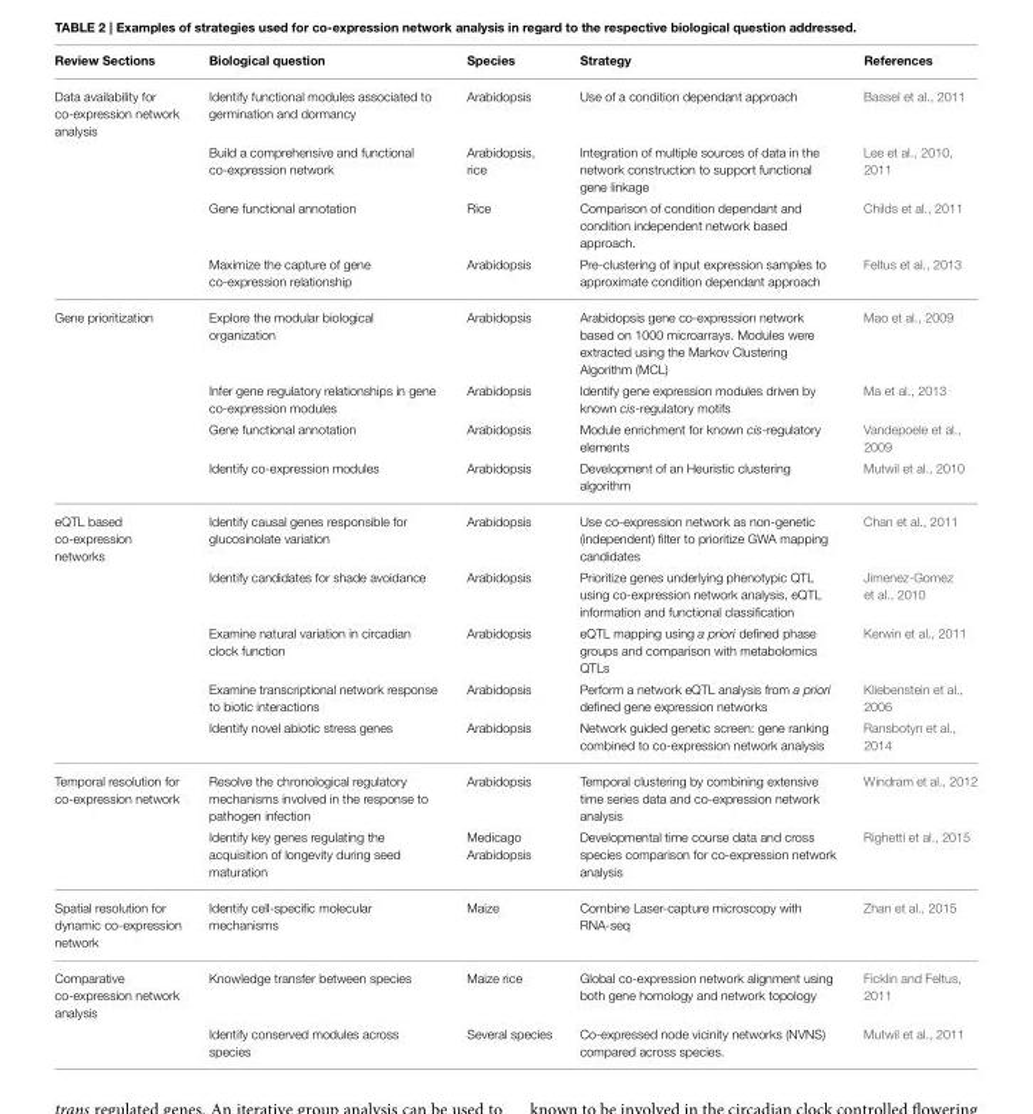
<table><thead><tr><td>Review Sections</td><td>Biological question</td><td>Species</td><td>Strategy</td><td>References</td></tr></thead><tbody><tr><td rowspan="4">Data availability for co-expression network analysis</td><td>Identify functional modules associated to germination and dormancy</td><td>Arabidopsis</td><td>Use of a condition dependant approach</td><td>Bassel et al., 2011</td></tr><tr><td>Build a comprehensive and functional co-expression network</td><td>Arabidopsis, rice</td><td>Integration of multiple sources of data in the network construction to support functional gene linkage</td><td>Lee et al., 2010, 2011</td></tr><tr><td>Gene functional annotation</td><td>Rice</td><td>Comparison of condition dependant and condition independent network based approach.</td><td>Childs et al., 2011</td></tr><tr><td>Maximize the capture of gene co-expression relationship</td><td>Arabidopsis</td><td>Pre-clustering of input expression samples to approximate condition dependant approach</td><td>Feltus et al., 2013</td></tr><tr><td rowspan="4">Gene prioritization</td><td>Explore the modular biological organization</td><td>Arabidopsis</td><td>Arabidopsis gene co-expression network based on 1000 microarrays. Modules were extracted using the Markov Clustering Algorithm (MCL)</td><td>Mao et al., 2009</td></tr><tr><td>Infer gene regulatory relationships in gene co-expression modules</td><td>Arabidopsis</td><td>Identify gene expression modules driven by known cis-regulatory motifs</td><td>Ma et al., 2013</td></tr><tr><td>Gene functional annotation</td><td>Arabidopsis</td><td>Module enrichment for known cis-regulatory elements</td><td>Vandepoele et al., 2009</td></tr><tr><td>Identify co-expression modules</td><td>Arabidopsis</td><td>Development of an Heuristic clustering algorithm</td><td>Mutwil et al., 2010</td></tr><tr><td rowspan="5">eQTL based co-expression networks</td><td>Identify causal genes responsible for glucosinolate variation</td><td>Arabidopsis</td><td>Use co-expression network as non-genetic (independent) filter to prioritize GWA mapping candidates</td><td>Chan et al., 2011</td></tr><tr><td>Identify candidates for shade avoidance</td><td>Arabidopsis</td><td>Prioritize genes underlying phenotypic QTL using co-expression network analysis, eQTL information and functional classification</td><td>Jimenez-Gomez et al., 2010</td></tr><tr><td>Examine natural variation in circadian clock function</td><td>Arabidopsis</td><td>eQTL mapping using a priori defined phase groups and comparison with metabolomics QTLs</td><td>Kerwin et al., 2011</td></tr><tr><td>Examine transcriptional network response to biotic interactions</td><td>Arabidopsis</td><td>Perform a network eQTL analysis from a priori defined gene expression networks</td><td>Kliebenstein et al., 2006</td></tr><tr><td>Identify novel abiotic stress genes</td><td>Arabidopsis</td><td>Network guided genetic screen: gene ranking combined to co-expression network analysis</td><td>Ransbotyn et al., 2014</td></tr><tr><td rowspan="2">Temporal resolution for co-expression network</td><td>Resolve the chronological regulatory mechanisms involved in the response to pathogen infection</td><td>Arabidopsis</td><td>Temporal clustering by combining extensive time series data and co-expression network analysis</td><td>Windram et al., 2012</td></tr><tr><td>Identify key genes regulating the acquisition of longevity during seed maturation</td><td>Medicago Arabidopsis</td><td>Developmental time course data and cross species comparison for co-expression network analysis</td><td>Righetti et al., 2015</td></tr><tr><td>Spatial resolution for dynamic co-expression network</td><td>Identify cell-specific molecular mechanisms</td><td>Maize</td><td>Combine Laser-capture microscopy with RNA-seq</td><td>Zhan et al., 2015</td></tr><tr><td rowspan="2">Comparative co-expression network analysis</td><td>Knowledge transfer between species</td><td>Maize rice</td><td>Global co-expression network alignment using both gene homology and network topology</td><td>Ficklin and Feltus, 2011</td></tr><tr><td>Identify conserved modules across species</td><td>Several species</td><td>Co-expressed node vicinity networks (NVNS) compared across species.</td><td>Mutwil et al., 2011</td></tr></tbody></table>